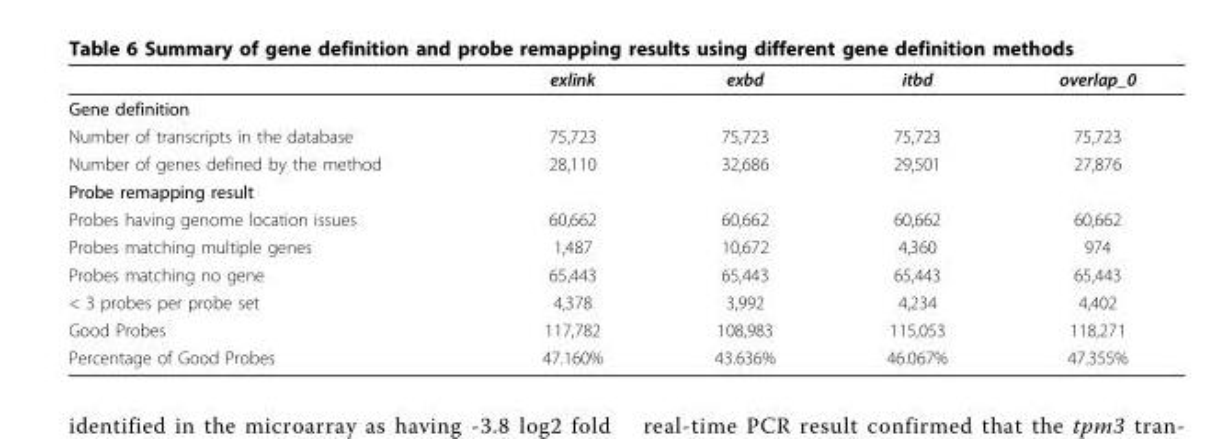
<table><thead><tr><td></td><td>exlink</td><td>exbd</td><td>itbd</td><td>overlap_0</td></tr></thead><tbody><tr><td colspan="5">Gene definition</td></tr><tr><td>Number of transcripts in the database</td><td>75,723</td><td>75,723</td><td>75,723</td><td>75,723</td></tr><tr><td>Number of genes defined by the method</td><td>28,110</td><td>32,686</td><td>29,501</td><td>27,876</td></tr><tr><td colspan="5">Probe remapping result</td></tr><tr><td>Probes having genome location issues</td><td>60,662</td><td>60,662</td><td>60,662</td><td>60,662</td></tr><tr><td>Probes matching multiple genes</td><td>1,487</td><td>10,672</td><td>4,360</td><td>974</td></tr><tr><td>Probes matching no gene</td><td>65,443</td><td>65,443</td><td>65,443</td><td>65,443</td></tr><tr><td>&lt; 3 probes per probe set</td><td>4,378</td><td>3,992</td><td>4,234</td><td>4,402</td></tr><tr><td>Good Probes</td><td>117,782</td><td>108,983</td><td>115,053</td><td>118,271</td></tr><tr><td>Percentage of Good Probes</td><td>47.160%</td><td>43.636%</td><td>46.067%</td><td>47.355%</td></tr></tbody></table>